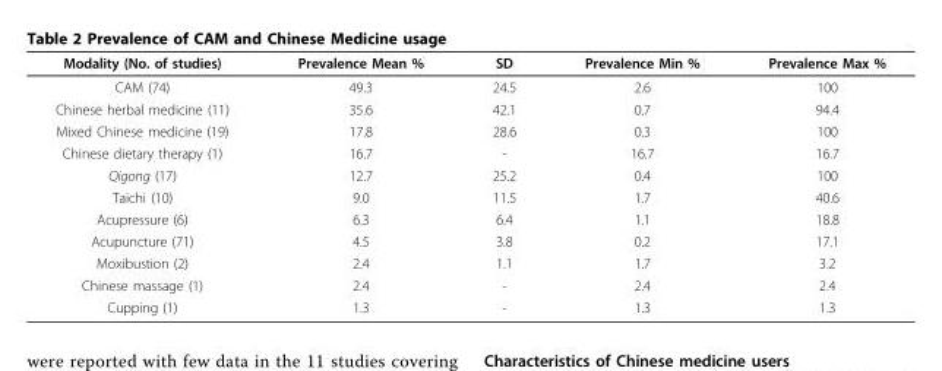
<table><thead><tr><td>Modality (No. of studies)</td><td>Prevalence Mean %</td><td>SD</td><td>Prevalence Min %</td><td>Prevalence Max %</td></tr></thead><tbody><tr><td>CAM (74)</td><td>49.3</td><td>24.5</td><td>2.6</td><td>100</td></tr><tr><td>Chinese herbal medicine (11)</td><td>35.6</td><td>42.1</td><td>0.7</td><td>94.4</td></tr><tr><td>Mixed Chinese medicine (19)</td><td>17.8</td><td>28.6</td><td>0.3</td><td>100</td></tr><tr><td>Chinese dietary therapy (1)</td><td>16.7</td><td>-</td><td>16.7</td><td>16.7</td></tr><tr><td>Qigong (17)</td><td>12.7</td><td>25.2</td><td>0.4</td><td>100</td></tr><tr><td>Taichi (10)</td><td>9.0</td><td>11.5</td><td>1.7</td><td>40.6</td></tr><tr><td>Acupressure (6)</td><td>6.3</td><td>6.4</td><td>1.1</td><td>18.8</td></tr><tr><td>Acupuncture (71)</td><td>4.5</td><td>3.8</td><td>0.2</td><td>17.1</td></tr><tr><td>Moxibustion (2)</td><td>2.4</td><td>1.1</td><td>1.7</td><td>3.2</td></tr><tr><td>Chinese massage (1)</td><td>2.4</td><td>-</td><td>2.4</td><td>2.4</td></tr><tr><td>Cupping (1)</td><td>1.3</td><td>-</td><td>1.3</td><td>1.3</td></tr></tbody></table>